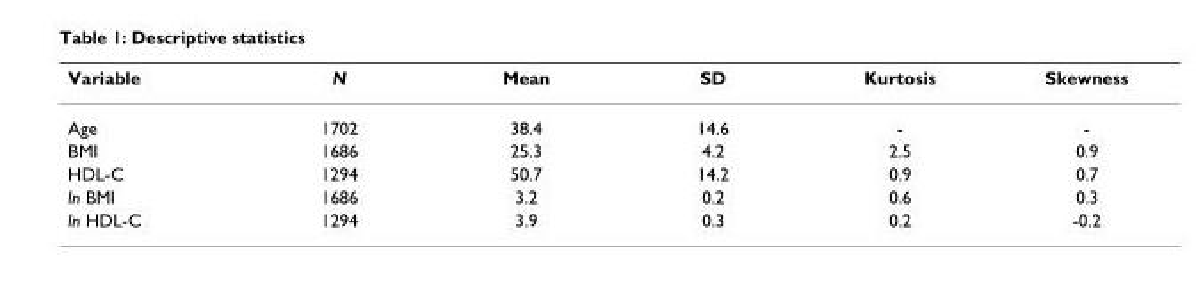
<table><thead><tr><td>Variable</td><td>N</td><td>Mean</td><td>SD</td><td>Kurtosis</td><td>Skewness</td></tr></thead><tbody><tr><td>Age</td><td>1702</td><td>38.4</td><td>14.6</td><td>-</td><td>-</td></tr><tr><td>BMI</td><td>1686</td><td>25.3</td><td>4.2</td><td>2.5</td><td>0.9</td></tr><tr><td>HDL-C</td><td>1294</td><td>50.7</td><td>14.2</td><td>0.9</td><td>0.7</td></tr><tr><td>ln BMI</td><td>1686</td><td>3.2</td><td>0.2</td><td>0.6</td><td>0.3</td></tr><tr><td>ln HDL-C</td><td>1294</td><td>3.9</td><td>0.3</td><td>0.2</td><td>-0.2</td></tr></tbody></table>